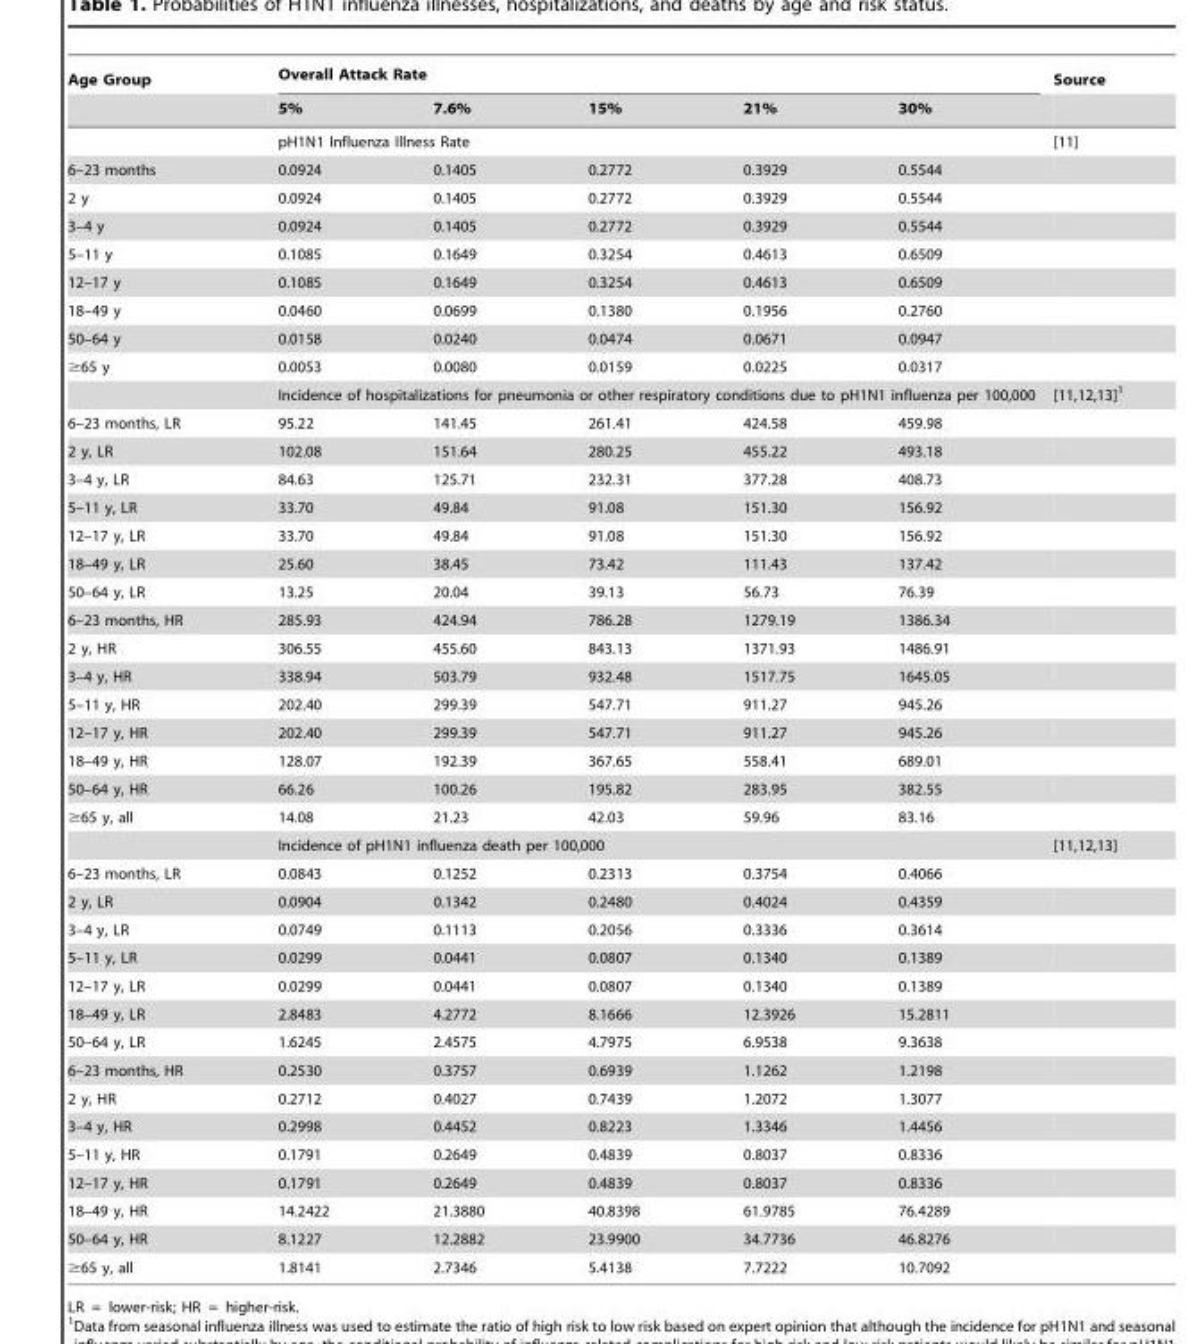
<table><thead><tr><td rowspan="2">Age Group</td><td colspan="5">Overall Attack Rate</td><td rowspan="2">Source</td></tr><tr><td>5%</td><td>7.6%</td><td>15%</td><td>21%</td><td>30%</td></tr></thead><tbody><tr><td></td><td colspan="5">pH1N1 Influenza Illness Rate</td><td>[11]</td></tr><tr><td>6–23 months</td><td>0.0924</td><td>0.1405</td><td>0.2772</td><td>0.3929</td><td>0.5544</td><td></td></tr><tr><td>2 y</td><td>0.0924</td><td>0.1405</td><td>0.2772</td><td>0.3929</td><td>0.5544</td><td></td></tr><tr><td>3–4 y</td><td>0.0924</td><td>0.1405</td><td>0.2772</td><td>0.3929</td><td>0.5544</td><td></td></tr><tr><td>5–11 y</td><td>0.1085</td><td>0.1649</td><td>0.3254</td><td>0.4613</td><td>0.6509</td><td></td></tr><tr><td>12–17 y</td><td>0.1085</td><td>0.1649</td><td>0.3254</td><td>0.4613</td><td>0.6509</td><td></td></tr><tr><td>18–49 y</td><td>0.0460</td><td>0.0699</td><td>0.1380</td><td>0.1956</td><td>0.2760</td><td></td></tr><tr><td>50–64 y</td><td>0.0158</td><td>0.0240</td><td>0.0474</td><td>0.0671</td><td>0.0947</td><td></td></tr><tr><td rowspan="2">≥65 y</td><td>0.0053</td><td>0.0080</td><td>0.0159</td><td>0.0225</td><td>0.0317</td><td></td></tr><tr><td colspan="5">Incidence of hospitalizations for pneumonia or other respiratory conditions due to pH1N1 influenza per 100,000</td><td>[11,12,13]1</td></tr><tr><td>6–23 months, LR</td><td>95.22</td><td>141.45</td><td>261.41</td><td>424.58</td><td>459.98</td><td></td></tr><tr><td>2 y, LR</td><td>102.08</td><td>151.64</td><td>280.25</td><td>455.22</td><td>493.18</td><td></td></tr><tr><td>3–4 y, LR</td><td>84.63</td><td>125.71</td><td>232.31</td><td>377.28</td><td>408.73</td><td></td></tr><tr><td>5–11 y, LR</td><td>33.70</td><td>49.84</td><td>91.08</td><td>151.30</td><td>156.92</td><td></td></tr><tr><td>12–17 y, LR</td><td>33.70</td><td>49.84</td><td>91.08</td><td>151.30</td><td>156.92</td><td></td></tr><tr><td>18–49 y, LR</td><td>25.60</td><td>38.45</td><td>73.42</td><td>111.43</td><td>137.42</td><td></td></tr><tr><td>50–64 y, LR</td><td>13.25</td><td>20.04</td><td>39.13</td><td>56.73</td><td>76.39</td><td></td></tr><tr><td>6–23 months, HR</td><td>285.93</td><td>424.94</td><td>786.28</td><td>1279.19</td><td>1386.34</td><td></td></tr><tr><td>2 y, HR</td><td>306.55</td><td>455.60</td><td>843.13</td><td>1371.93</td><td>1486.91</td><td></td></tr><tr><td>3–4 y, HR</td><td>338.94</td><td>503.79</td><td>932.48</td><td>1517.75</td><td>1645.05</td><td></td></tr><tr><td>5–11 y, HR</td><td>202.40</td><td>299.39</td><td>547.71</td><td>911.27</td><td>945.26</td><td></td></tr><tr><td>12–17 y, HR</td><td>202.40</td><td>299.39</td><td>547.71</td><td>911.27</td><td>945.26</td><td></td></tr><tr><td>18–49 y, HR</td><td>128.07</td><td>192.39</td><td>367.65</td><td>558.41</td><td>689.01</td><td></td></tr><tr><td>50–64 y, HR</td><td>66.26</td><td>100.26</td><td>195.82</td><td>283.95</td><td>382.55</td><td></td></tr><tr><td rowspan="2">≥65 y, all</td><td>14.08</td><td>21.23</td><td>42.03</td><td>59.96</td><td>83.16</td><td></td></tr><tr><td colspan="5">Incidence of pH1N1 influenza death per 100,000</td><td>[11,12,13]</td></tr><tr><td>6–23 months, LR</td><td>0.0843</td><td>0.1252</td><td>0.2313</td><td>0.3754</td><td>0.4066</td><td></td></tr><tr><td>2 y, LR</td><td>0.0904</td><td>0.1342</td><td>0.2480</td><td>0.4024</td><td>0.4359</td><td></td></tr><tr><td>3–4 y, LR</td><td>0.0749</td><td>0.1113</td><td>0.2056</td><td>0.3336</td><td>0.3614</td><td></td></tr><tr><td>5–11 y, LR</td><td>0.0299</td><td>0.0441</td><td>0.0807</td><td>0.1340</td><td>0.1389</td><td></td></tr><tr><td>12–17 y, LR</td><td>0.0299</td><td>0.0441</td><td>0.0807</td><td>0.1340</td><td>0.1389</td><td></td></tr><tr><td>18–49 y, LR</td><td>2.8483</td><td>4.2772</td><td>8.1666</td><td>12.3926</td><td>15.2811</td><td></td></tr><tr><td>50–64 y, LR</td><td>1.6245</td><td>2.4575</td><td>4.7975</td><td>6.9538</td><td>9.3638</td><td></td></tr><tr><td>6–23 months, HR</td><td>0.2530</td><td>0.3757</td><td>0.6939</td><td>1.1262</td><td>1.2198</td><td></td></tr><tr><td>2 y, HR</td><td>0.2712</td><td>0.4027</td><td>0.7439</td><td>1.2072</td><td>1.3077</td><td></td></tr><tr><td>3–4 y, HR</td><td>0.2998</td><td>0.4452</td><td>0.8223</td><td>1.3346</td><td>1.4456</td><td></td></tr><tr><td>5–11 y, HR</td><td>0.1791</td><td>0.2649</td><td>0.4839</td><td>0.8037</td><td>0.8336</td><td></td></tr><tr><td>12–17 y, HR</td><td>0.1791</td><td>0.2649</td><td>0.4839</td><td>0.8037</td><td>0.8336</td><td></td></tr><tr><td>18–49 y, HR</td><td>14.2422</td><td>21.3880</td><td>40.8398</td><td>61.9785</td><td>76.4289</td><td></td></tr><tr><td>50–64 y, HR</td><td>8.1227</td><td>12.2882</td><td>23.9900</td><td>34.7736</td><td>46.8276</td><td></td></tr><tr><td>≥65 y, all</td><td>1.8141</td><td>2.7346</td><td>5.4138</td><td>7.7222</td><td>10.7092</td><td></td></tr></tbody></table>